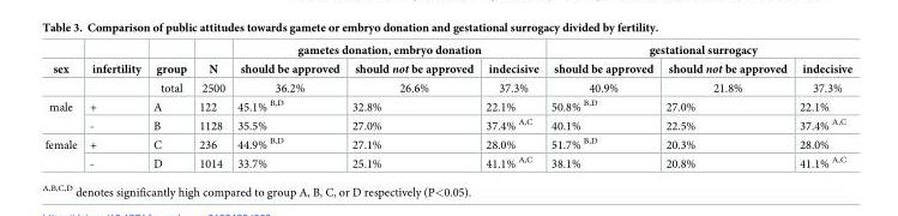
<table><thead><tr><td rowspan="2">sex</td><td rowspan="2">infertility</td><td rowspan="2">group</td><td rowspan="2">N</td><td colspan="3">gametes donation, embryo donation</td><td colspan="3">gestational surrogacy</td></tr><tr><td>should be approved</td><td>should not be approved</td><td>indecisive</td><td>should be approved</td><td>should not be approved</td><td>indecisive</td></tr></thead><tbody><tr><td></td><td></td><td>total</td><td>2500</td><td>36.2%</td><td>26.6%</td><td>37.3%</td><td>40.9%</td><td>21.8%</td><td>37.3%</td></tr><tr><td rowspan="2">male</td><td>+</td><td>A</td><td>122</td><td>45.1% <sup>B,D</sup></td><td>32.8%</td><td>22.1%</td><td>50.8% <sup>B,D</sup></td><td>27.0%</td><td>22.1%</td></tr><tr><td>-</td><td>B</td><td>1128</td><td>35.5%</td><td>27.0%</td><td>37.4% <sup>A,C</sup></td><td>40.1%</td><td>22.5%</td><td>37.4% <sup>A,C</sup></td></tr><tr><td rowspan="2">female</td><td>+</td><td>C</td><td>236</td><td>44.9% <sup>B,D</sup></td><td>27.1%</td><td>28.0%</td><td>51.7% <sup>B,D</sup></td><td>20.3%</td><td>28.0%</td></tr><tr><td>-</td><td>D</td><td>1014</td><td>33.7%</td><td>25.1%</td><td>41.1% <sup>A,C</sup></td><td>38.1%</td><td>20.8%</td><td>41.1% <sup>A,C</sup></td></tr></tbody></table>